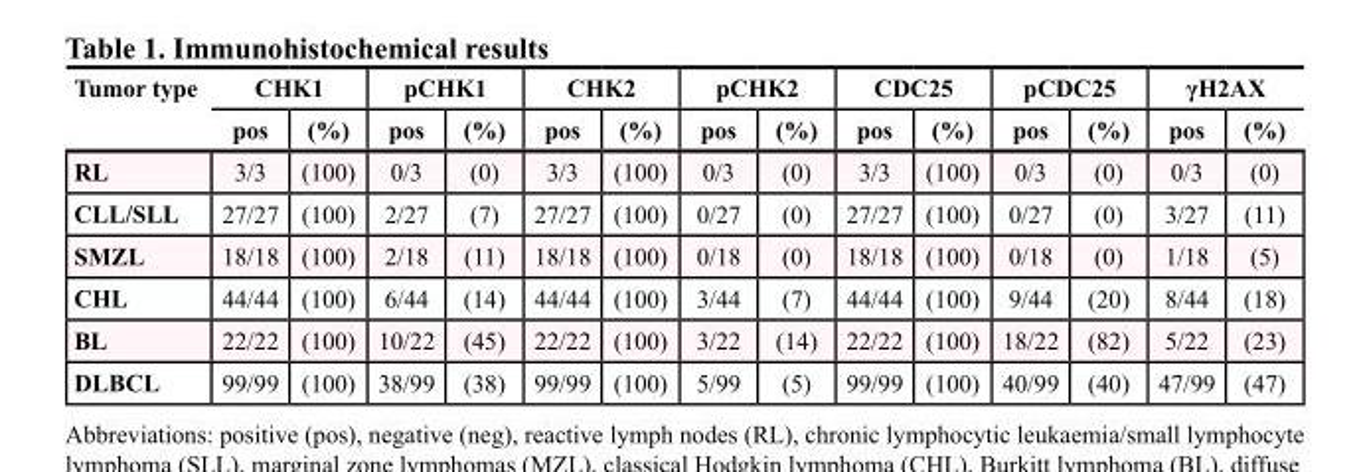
<table><thead><tr><td rowspan="2">Tumor type</td><td colspan="2">CHK1</td><td colspan="2">pCHK1</td><td colspan="2">CHK2</td><td colspan="2">pCHK2</td><td colspan="2">CDC25</td><td colspan="2">pCDC25</td><td colspan="2">γH2AX</td></tr><tr><td>pos</td><td>(%)</td><td>pos</td><td>(%)</td><td>pos</td><td>(%)</td><td>pos</td><td>(%)</td><td>pos</td><td>(%)</td><td>pos</td><td>(%)</td><td>pos</td><td>(%)</td></tr></thead><tbody><tr><td>RL</td><td>3/3</td><td>(100)</td><td>0/3</td><td>(0)</td><td>3/3</td><td>(100)</td><td>0/3</td><td>(0)</td><td>3/3</td><td>(100)</td><td>0/3</td><td>(0)</td><td>0/3</td><td>(0)</td></tr><tr><td>CLL/SLL</td><td>27/27</td><td>(100)</td><td>2/27</td><td>(7)</td><td>27/27</td><td>(100)</td><td>0/27</td><td>(0)</td><td>27/27</td><td>(100)</td><td>0/27</td><td>(0)</td><td>3/27</td><td>(11)</td></tr><tr><td>SMZL</td><td>18/18</td><td>(100)</td><td>2/18</td><td>(11)</td><td>18/18</td><td>(100)</td><td>0/18</td><td>(0)</td><td>18/18</td><td>(100)</td><td>0/18</td><td>(0)</td><td>1/18</td><td>(5)</td></tr><tr><td>CHL</td><td>44/44</td><td>(100)</td><td>6/44</td><td>(14)</td><td>44/44</td><td>(100)</td><td>3/44</td><td>(7)</td><td>44/44</td><td>(100)</td><td>9/44</td><td>(20)</td><td>8/44</td><td>(18)</td></tr><tr><td>BL</td><td>22/22</td><td>(100)</td><td>10/22</td><td>(45)</td><td>22/22</td><td>(100)</td><td>3/22</td><td>(14)</td><td>22/22</td><td>(100)</td><td>18/22</td><td>(82)</td><td>5/22</td><td>(23)</td></tr><tr><td>DLBCL</td><td>99/99</td><td>(100)</td><td>38/99</td><td>(38)</td><td>99/99</td><td>(100)</td><td>5/99</td><td>(5)</td><td>99/99</td><td>(100)</td><td>40/99</td><td>(40)</td><td>47/99</td><td>(47)</td></tr></tbody></table>